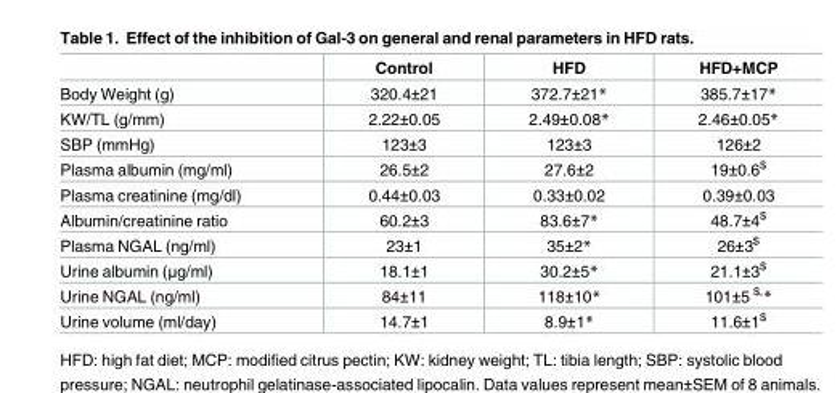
<table><thead><tr><td></td><td>Control</td><td>HFD</td><td>HFD+MCP</td></tr></thead><tbody><tr><td>Body Weight (g)</td><td>320.4±21</td><td>372.7±21*</td><td>385.7±17*</td></tr><tr><td>KW/TL (g/mm)</td><td>2.22±0.05</td><td>2.49±0.08*</td><td>2.46±0.05*</td></tr><tr><td>SBP (mmHg)</td><td>123±3</td><td>123±3</td><td>126±2</td></tr><tr><td>Plasma albumin (mg/ml)</td><td>26.5±2</td><td>27.6±2</td><td>19±0.6<sup>$</sup></td></tr><tr><td>Plasma creatinine (mg/dl)</td><td>0.44±0.03</td><td>0.33±0.02</td><td>0.39±0.03</td></tr><tr><td>Albumin/creatinine ratio</td><td>60.2±3</td><td>83.6±7*</td><td>48.7±4<sup>$</sup></td></tr><tr><td>Plasma NGAL (ng/ml)</td><td>23±1</td><td>35±2*</td><td>26±3<sup>$</sup></td></tr><tr><td>Urine albumin (μg/ml)</td><td>18.1±1</td><td>30.2±5*</td><td>21.1±3<sup>$</sup></td></tr><tr><td>Urine NGAL (ng/ml)</td><td>84±11</td><td>118±10*</td><td>101±5 <sup>$,</sup>*</td></tr><tr><td>Urine volume (ml/day)</td><td>14.7±1</td><td>8.9±1*</td><td>11.6±1<sup>$</sup></td></tr></tbody></table>